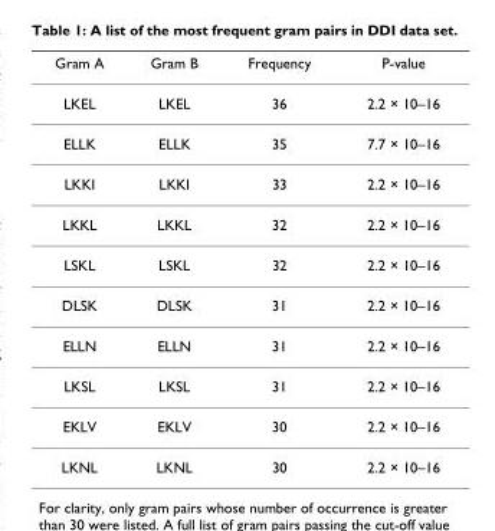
<table><thead><tr><td>Gram A</td><td>Gram B</td><td>Frequency</td><td>P-value</td></tr></thead><tbody><tr><td>LKEL</td><td>LKEL</td><td>36</td><td>2.2 × 10–16</td></tr><tr><td>ELLK</td><td>ELLK</td><td>35</td><td>7.7 × 10–16</td></tr><tr><td>LKKI</td><td>LKKI</td><td>33</td><td>2.2 × 10–16</td></tr><tr><td>LKKL</td><td>LKKL</td><td>32</td><td>2.2 × 10–16</td></tr><tr><td>LSKL</td><td>LSKL</td><td>32</td><td>2.2 × 10–16</td></tr><tr><td>DLSK</td><td>DLSK</td><td>31</td><td>2.2 × 10–16</td></tr><tr><td>ELLN</td><td>ELLN</td><td>31</td><td>2.2 × 10–16</td></tr><tr><td>LKSL</td><td>LKSL</td><td>31</td><td>2.2 × 10–16</td></tr><tr><td>EKLV</td><td>EKLV</td><td>30</td><td>2.2 × 10–16</td></tr><tr><td>LKNL</td><td>LKNL</td><td>30</td><td>2.2 × 10–16</td></tr></tbody></table>